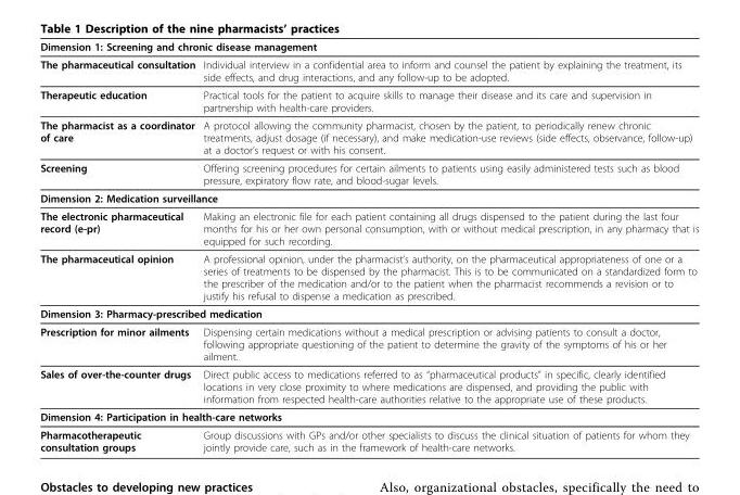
<table><thead><tr><td colspan="2">Dimension 1: Screening and chronic disease management</td></tr><tr><td>The pharmaceutical consultation</td><td>Individual interview in a confidential area to inform and counsel the patient by explaining the treatment, its side effects, and drug interactions, and any follow-up to be adopted.</td></tr></thead><tbody><tr><td>Therapeutic education</td><td>Practical tools for the patient to acquire skills to manage their disease and its care and supervision in partnership with health-care providers.</td></tr><tr><td>The pharmacist as a coordinator of care</td><td>A protocol allowing the community pharmacist, chosen by the patient, to periodically renew chronic treatments, adjust dosage (if necessary), and make medication-use reviews (side effects, observance, follow-up) at a doctor’s request or with his consent.</td></tr><tr><td>Screening</td><td>Offering screening procedures for certain ailments to patients using easily administered tests such as blood pressure, expiratory flow rate, and blood-sugar levels.</td></tr><tr><td colspan="2">Dimension 2: Medication surveillance</td></tr><tr><td>The electronic pharmaceutical record (e-pr)</td><td>Making an electronic file for each patient containing all drugs dispensed to the patient during the last four months for his or her own personal consumption, with or without medical prescription, in any pharmacy that is equipped for such recording.</td></tr><tr><td>The pharmaceutical opinion</td><td>A professional opinion, under the pharmacist’s authority, on the pharmaceutical appropriateness of one or a series of treatments to be dispensed by the pharmacist. This is to be communicated on a standardized form to the prescriber of the medication and/or to the patient when the pharmacist recommends a revision or to justify his refusal to dispense a medication as prescribed.</td></tr><tr><td colspan="2">Dimension 3: Pharmacy-prescribed medication</td></tr><tr><td>Prescription for minor ailments</td><td>Dispensing certain medications without a medical prescription or advising patients to consult a doctor, following appropriate questioning of the patient to determine the gravity of the symptoms of his or her ailment.</td></tr><tr><td>Sales of over-the-counter drugs</td><td>Direct public access to medications referred to as “pharmaceutical products” in specific, clearly identified locations in very close proximity to where medications are dispensed, and providing the public with information from respected health-care authorities relative to the appropriate use of these products.</td></tr><tr><td colspan="2">Dimension 4: Participation in health-care networks</td></tr><tr><td>Pharmacotherapeutic consultation groups</td><td>Group discussions with GPs and/or other specialists to discuss the clinical situation of patients for whom they jointly provide care, such as in the framework of health-care networks.</td></tr></tbody></table>